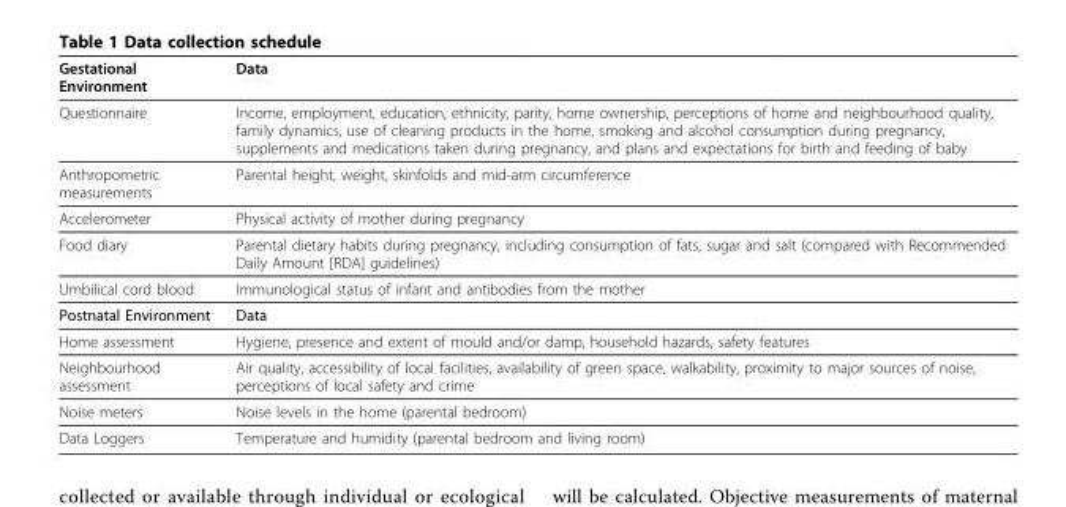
<table><thead><tr><td>Gestational Environment</td><td>Data</td></tr></thead><tbody><tr><td>Questionnaire</td><td>Income, employment, education, ethnicity, parity, home ownership, perceptions of home and neighbourhood quality, family dynamics, use of cleaning products in the home, smoking and alcohol consumption during pregnancy, supplements and medications taken during pregnancy, and plans and expectations for birth and feeding of baby</td></tr><tr><td>Anthropometric measurements</td><td>Parental height, weight, skinfolds and mid-arm circumference</td></tr><tr><td>Accelerometer</td><td>Physical activity of mother during pregnancy</td></tr><tr><td>Food diary</td><td>Parental dietary habits during pregnancy, including consumption of fats, sugar and salt (compared with Recommended Daily Amount [RDA] guidelines)</td></tr><tr><td>Umbilical cord blood</td><td>Immunological status of infant and antibodies from the mother</td></tr><tr><td>Postnatal Environment</td><td>Data</td></tr><tr><td>Home assessment</td><td>Hygiene, presence and extent of mould and/or damp, household hazards, safety features</td></tr><tr><td>Neighbourhood assessment</td><td>Air quality, accessibility of local facilities, availability of green space, walkability, proximity to major sources of noise, perceptions of local safety and crime</td></tr><tr><td>Noise meters</td><td>Noise levels in the home (parental bedroom)</td></tr><tr><td>Data Loggers</td><td>Temperature and humidity (parental bedroom and living room)</td></tr></tbody></table>